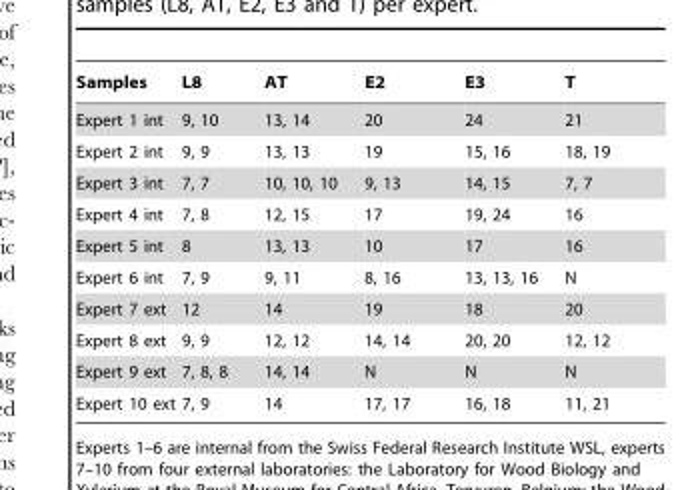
<table><thead><tr><td>Samples</td><td>L8</td><td>AT</td><td>E2</td><td>E3</td><td>T</td></tr></thead><tbody><tr><td>Expert 1 int</td><td>9, 10</td><td>13, 14</td><td>20</td><td>24</td><td>21</td></tr><tr><td>Expert 2 int</td><td>9, 9</td><td>13, 13</td><td>19</td><td>15, 16</td><td>18, 19</td></tr><tr><td>Expert 3 int</td><td>7, 7</td><td>10, 10, 10</td><td>9, 13</td><td>14, 15</td><td>7, 7</td></tr><tr><td>Expert 4 int</td><td>7, 8</td><td>12, 15</td><td>17</td><td>19, 24</td><td>16</td></tr><tr><td>Expert 5 int</td><td>8</td><td>13, 13</td><td>10</td><td>17</td><td>16</td></tr><tr><td>Expert 6 int</td><td>7, 9</td><td>9, 11</td><td>8, 16</td><td>13, 13, 16</td><td>N</td></tr><tr><td>Expert 7 ext</td><td>12</td><td>14</td><td>19</td><td>18</td><td>20</td></tr><tr><td>Expert 8 ext</td><td>9, 9</td><td>12, 12</td><td>14, 14</td><td>20, 20</td><td>12, 12</td></tr><tr><td>Expert 9 ext</td><td>7, 8, 8</td><td>14, 14</td><td>N</td><td>N</td><td>N</td></tr><tr><td>Expert 10 ext</td><td>7, 9</td><td>14</td><td>17, 17</td><td>16, 18</td><td>11, 21</td></tr></tbody></table>